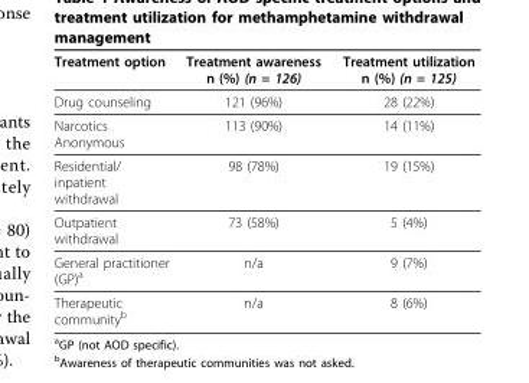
<table><thead><tr><td>Treatment option</td><td>Treatment awareness n (%) (n = 126)</td><td>Treatment utilization n (%) (n = 125)</td></tr></thead><tbody><tr><td>Drug counseling</td><td>121 (96%)</td><td>28 (22%)</td></tr><tr><td>Narcotics Anonymous</td><td>113 (90%)</td><td>14 (11%)</td></tr><tr><td>Residential/ inpatient withdrawal</td><td>98 (78%)</td><td>19 (15%)</td></tr><tr><td>Outpatient withdrawal</td><td>73 (58%)</td><td>5 (4%)</td></tr><tr><td>General practitioner (GP)<sup>a</sup></td><td>n/a</td><td>9 (7%)</td></tr><tr><td>Therapeutic community<sup>b</sup></td><td>n/a</td><td>8 (6%)</td></tr></tbody></table>